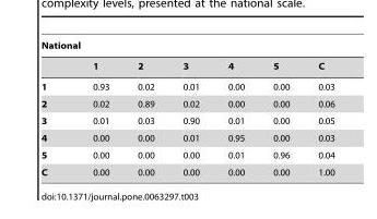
<table><thead><tr><td colspan="7">National</td></tr><tr><td></td><td>1</td><td>2</td><td>3</td><td>4</td><td>5</td><td>C</td></tr></thead><tbody><tr><td>1</td><td>0.93</td><td>0.02</td><td>0.01</td><td>0.00</td><td>0.00</td><td>0.03</td></tr><tr><td>2</td><td>0.02</td><td>0.89</td><td>0.02</td><td>0.00</td><td>0.00</td><td>0.06</td></tr><tr><td>3</td><td>0.01</td><td>0.03</td><td>0.90</td><td>0.01</td><td>0.00</td><td>0.05</td></tr><tr><td>4</td><td>0.00</td><td>0.00</td><td>0.01</td><td>0.95</td><td>0.00</td><td>0.03</td></tr><tr><td>5</td><td>0.00</td><td>0.00</td><td>0.00</td><td>0.01</td><td>0.96</td><td>0.04</td></tr><tr><td>C</td><td>0.00</td><td>0.00</td><td>0.00</td><td>0.00</td><td>0.00</td><td>1.00</td></tr></tbody></table>